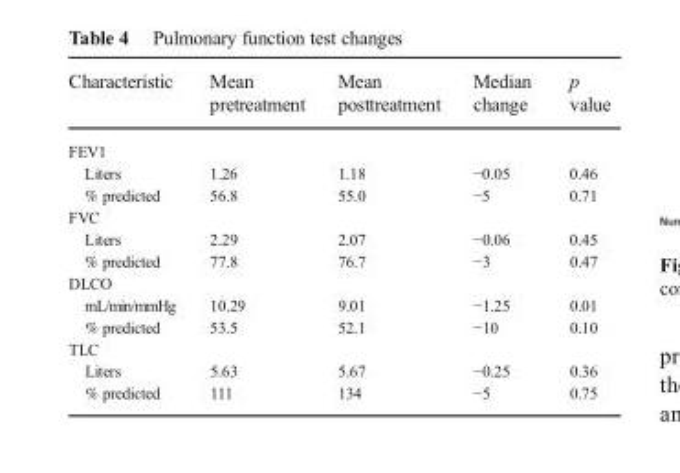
<table><thead><tr><td>Characteristic</td><td>Mean pretreatment</td><td>Mean posttreatment</td><td>Median change</td><td>p value</td></tr></thead><tbody><tr><td colspan="5">FEV1</td></tr><tr><td>Liters</td><td>1.26</td><td>1.18</td><td>−0.05</td><td>0.46</td></tr><tr><td>% predicted</td><td>56.8</td><td>55.0</td><td>−5</td><td>0.71</td></tr><tr><td colspan="5">FVC</td></tr><tr><td>Liters</td><td>2.29</td><td>2.07</td><td>−0.06</td><td>0.45</td></tr><tr><td>% predicted</td><td>77.8</td><td>76.7</td><td>−3</td><td>0.47</td></tr><tr><td colspan="5">DLCO</td></tr><tr><td>mL/min/mmHg</td><td>10.29</td><td>9.01</td><td>−1.25</td><td>0.01</td></tr><tr><td>% predicted</td><td>53.5</td><td>52.1</td><td>−10</td><td>0.10</td></tr><tr><td colspan="5">TLC</td></tr><tr><td>Liters</td><td>5.63</td><td>5.67</td><td>−0.25</td><td>0.36</td></tr><tr><td>% predicted</td><td>111</td><td>134</td><td>−5</td><td>0.75</td></tr></tbody></table>